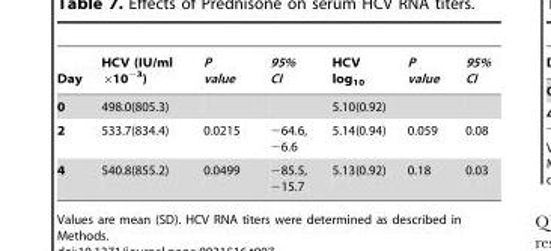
<table><thead><tr><td>Day</td><td>HCV (IU/ml ×10<sup>−3</sup>)</td><td>P value</td><td>95% CI</td><td>HCV log<sub>10</sub></td><td>P value</td><td>95% CI</td></tr></thead><tbody><tr><td>0</td><td>498.0(805.3)</td><td></td><td></td><td>5.10(0.92)</td><td></td><td></td></tr><tr><td>2</td><td>533.7(834.4)</td><td>0.0215</td><td>−64.6, −6.6</td><td>5.14(0.94)</td><td>0.059</td><td>0.08</td></tr><tr><td>4</td><td>540.8(855.2)</td><td>0.0499</td><td>−85.5, −15.7</td><td>5.13(0.92)</td><td>0.18</td><td>0.03</td></tr></tbody></table>